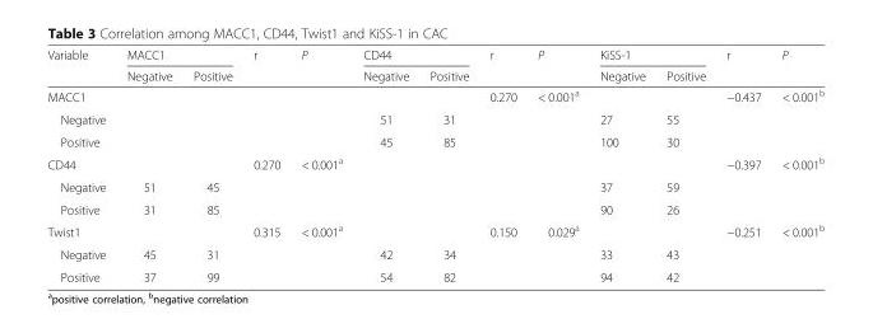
<table><thead><tr><td rowspan="2">Variable</td><td colspan="2">MACC1</td><td rowspan="2">r</td><td rowspan="2">P</td><td colspan="2">CD44</td><td rowspan="2">r</td><td rowspan="2">P</td><td colspan="2">KiSS-1</td><td rowspan="2">r</td><td rowspan="2">P</td></tr><tr><td>Negative</td><td>Positive</td><td>Negative</td><td>Positive</td><td>Negative</td><td>Positive</td></tr></thead><tbody><tr><td>MACC1</td><td></td><td></td><td></td><td></td><td></td><td></td><td>0.270</td><td>&lt; 0.001<sup>a</sup></td><td></td><td></td><td>−0.437</td><td>&lt; 0.001<sup>b</sup></td></tr><tr><td>Negative</td><td></td><td></td><td></td><td></td><td>51</td><td>31</td><td></td><td></td><td>27</td><td>55</td><td></td><td></td></tr><tr><td>Positive</td><td></td><td></td><td></td><td></td><td>45</td><td>85</td><td></td><td></td><td>100</td><td>30</td><td></td><td></td></tr><tr><td>CD44</td><td></td><td></td><td>0.270</td><td>&lt; 0.001<sup>a</sup></td><td></td><td></td><td></td><td></td><td></td><td></td><td>−0.397</td><td>&lt; 0.001<sup>b</sup></td></tr><tr><td>Negative</td><td>51</td><td>45</td><td></td><td></td><td></td><td></td><td></td><td></td><td>37</td><td>59</td><td></td><td></td></tr><tr><td>Positive</td><td>31</td><td>85</td><td></td><td></td><td></td><td></td><td></td><td></td><td>90</td><td>26</td><td></td><td></td></tr><tr><td>Twist1</td><td></td><td></td><td>0.315</td><td>&lt; 0.001<sup>a</sup></td><td></td><td></td><td>0.150</td><td>0.029<sup>a</sup></td><td></td><td></td><td>−0.251</td><td>&lt; 0.001<sup>b</sup></td></tr><tr><td>Negative</td><td>45</td><td>31</td><td></td><td></td><td>42</td><td>34</td><td></td><td></td><td>33</td><td>43</td><td></td><td></td></tr><tr><td>Positive</td><td>37</td><td>99</td><td></td><td></td><td>54</td><td>82</td><td></td><td></td><td>94</td><td>42</td><td></td><td></td></tr></tbody></table>